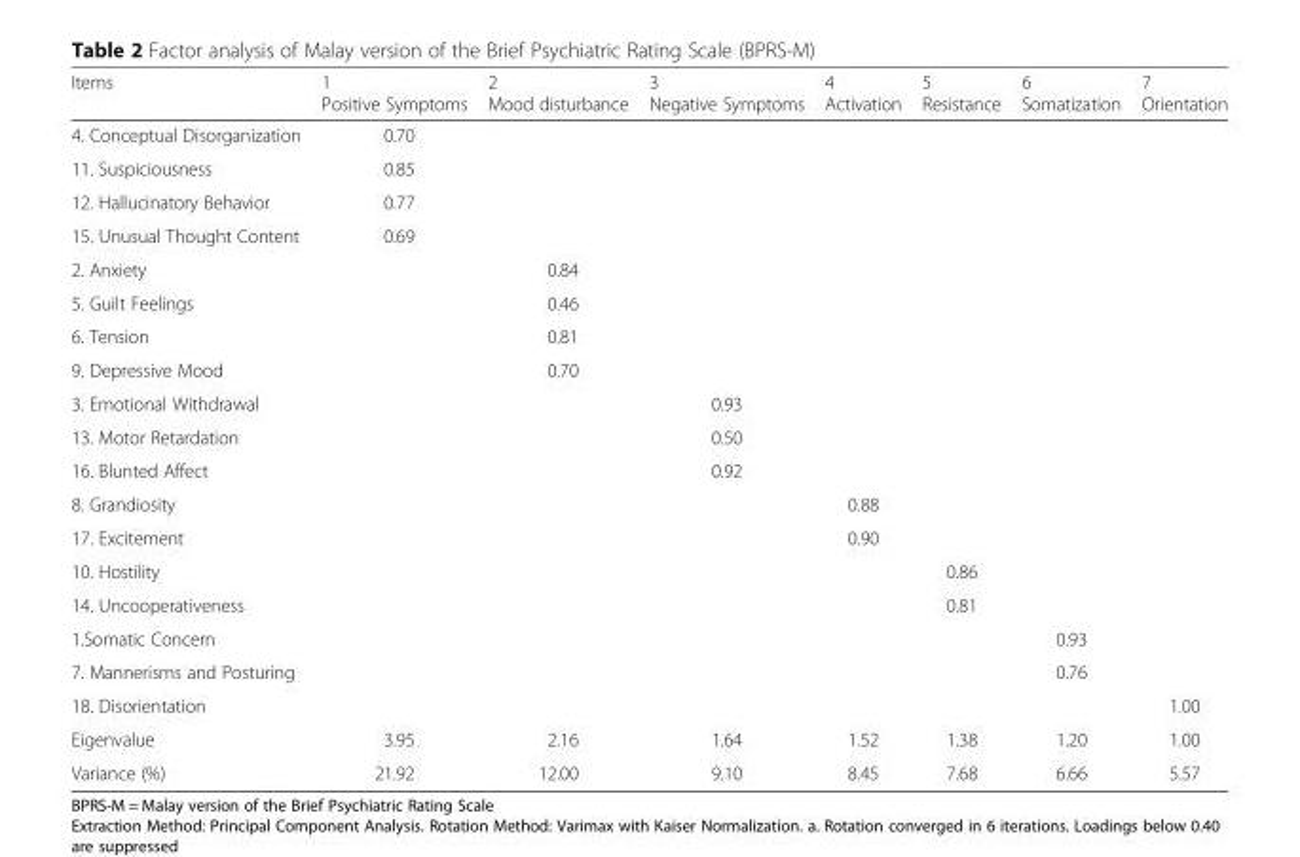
<table><thead><tr><td>Items</td><td>1 Positive Symptoms</td><td>2 Mood disturbance</td><td>3 Negative Symptoms</td><td>4 Activation</td><td>5 Resistance</td><td>6 Somatization</td><td>7 Orientation</td></tr></thead><tbody><tr><td>4. Conceptual Disorganization</td><td>0.70</td><td></td><td></td><td></td><td></td><td></td><td></td></tr><tr><td>11. Suspiciousness</td><td>0.85</td><td></td><td></td><td></td><td></td><td></td><td></td></tr><tr><td>12. Hallucinatory Behavior</td><td>0.77</td><td></td><td></td><td></td><td></td><td></td><td></td></tr><tr><td>15. Unusual Thought Content</td><td>0.69</td><td></td><td></td><td></td><td></td><td></td><td></td></tr><tr><td>2. Anxiety</td><td></td><td>0.84</td><td></td><td></td><td></td><td></td><td></td></tr><tr><td>5. Guilt Feelings</td><td></td><td>0.46</td><td></td><td></td><td></td><td></td><td></td></tr><tr><td>6. Tension</td><td></td><td>0.81</td><td></td><td></td><td></td><td></td><td></td></tr><tr><td>9. Depressive Mood</td><td></td><td>0.70</td><td></td><td></td><td></td><td></td><td></td></tr><tr><td>3. Emotional Withdrawal</td><td></td><td></td><td>0.93</td><td></td><td></td><td></td><td></td></tr><tr><td>13. Motor Retardation</td><td></td><td></td><td>0.50</td><td></td><td></td><td></td><td></td></tr><tr><td>16. Blunted Affect</td><td></td><td></td><td>0.92</td><td></td><td></td><td></td><td></td></tr><tr><td>8. Grandiosity</td><td></td><td></td><td></td><td>0.88</td><td></td><td></td><td></td></tr><tr><td>17. Excitement</td><td></td><td></td><td></td><td>0.90</td><td></td><td></td><td></td></tr><tr><td>10. Hostility</td><td></td><td></td><td></td><td></td><td>0.86</td><td></td><td></td></tr><tr><td>14. Uncooperativeness</td><td></td><td></td><td></td><td></td><td>0.81</td><td></td><td></td></tr><tr><td>1.Somatic Concern</td><td></td><td></td><td></td><td></td><td></td><td>0.93</td><td></td></tr><tr><td>7. Mannerisms and Posturing</td><td></td><td></td><td></td><td></td><td></td><td>0.76</td><td></td></tr><tr><td>18. Disorientation</td><td></td><td></td><td></td><td></td><td></td><td></td><td>1.00</td></tr><tr><td>Eigenvalue</td><td>3.95</td><td>2.16</td><td>1.64</td><td>1.52</td><td>1.38</td><td>1.20</td><td>1.00</td></tr><tr><td>Variance (%)</td><td>21.92</td><td>12.00</td><td>9.10</td><td>8.45</td><td>7.68</td><td>6.66</td><td>5.57</td></tr></tbody></table>